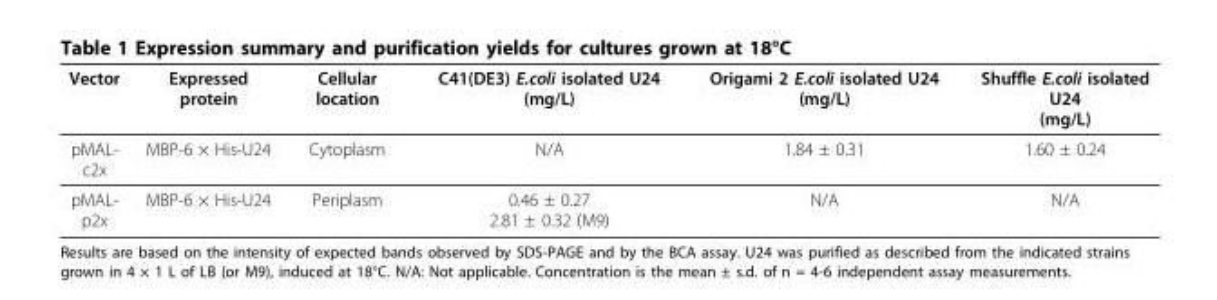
<table><thead><tr><td>Vector</td><td>Expressed protein</td><td>Cellular location</td><td>C41(DE3) E.coli isolated U24 (mg/L)</td><td>Origami 2 E.coli isolated U24 (mg/L)</td><td>Shuffle E.coli isolated U24 (mg/L)</td></tr></thead><tbody><tr><td>pMAL- c2x</td><td>MBP-6 × His-U24</td><td>Cytoplasm</td><td>N/A</td><td>1.84 ± 0.31</td><td>1.60 ± 0.24</td></tr><tr><td>pMAL- p2x</td><td>MBP-6 × His-U24</td><td>Periplasm</td><td>0.46 ± 0.27 2.81 ± 0.32 (M9)</td><td>N/A</td><td>N/A</td></tr></tbody></table>